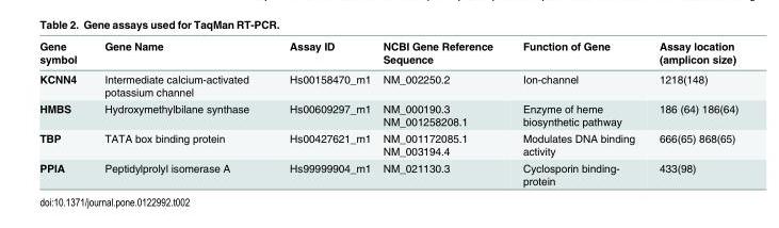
<table><thead><tr><td>Gene symbol</td><td>Gene Name</td><td>Assay ID</td><td>NCBI Gene Reference Sequence</td><td>Function of Gene</td><td>Assay location (amplicon size)</td></tr></thead><tbody><tr><td>KCNN4</td><td>Intermediate calcium-activated potassium channel</td><td>Hs00158470_m1</td><td>NM_002250.2</td><td>Ion-channel</td><td>1218(148)</td></tr><tr><td>HMBS</td><td>Hydroxymethylbilane synthase</td><td>Hs00609297_m1</td><td>NM_000190.3 NM_001258208.1</td><td>Enzyme of heme biosynthetic pathway</td><td>186 (64) 186(64)</td></tr><tr><td>TBP</td><td>TATA box binding protein</td><td>Hs00427621_m1</td><td>NM_001172085.1 NM_003194.4</td><td>Modulates DNA binding activity</td><td>666(65) 868(65)</td></tr><tr><td>PPIA</td><td>Peptidylprolyl isomerase A</td><td>Hs99999904_m1</td><td>NM_021130.3</td><td>Cyclosporin binding- protein</td><td>433(98)</td></tr></tbody></table>